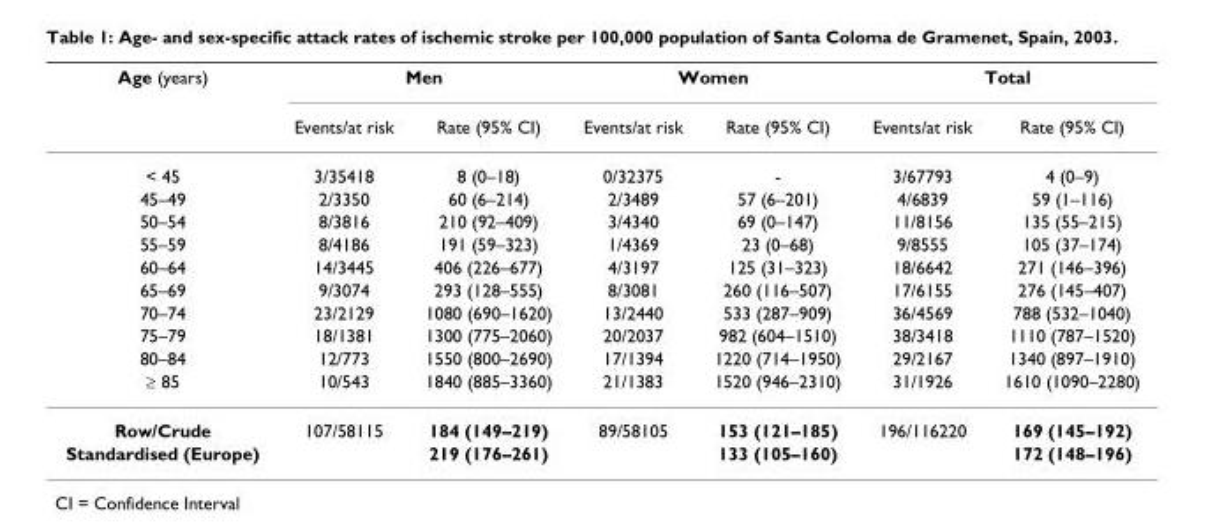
<table><thead><tr><td rowspan="2">Age (years)</td><td colspan="2">Men</td><td colspan="2">Women</td><td colspan="2">Total</td></tr><tr><td>Events/at risk</td><td>Rate (95% CI)</td><td>Events/at risk</td><td>Rate (95% CI)</td><td>Events/at risk</td><td>Rate (95% CI)</td></tr></thead><tbody><tr><td>&lt; 45</td><td>3/35418</td><td>8 (0–18)</td><td>0/32375</td><td>-</td><td>3/67793</td><td>4 (0–9)</td></tr><tr><td>45–49</td><td>2/3350</td><td>60 (6–214)</td><td>2/3489</td><td>57 (6–201)</td><td>4/6839</td><td>59 (1–116)</td></tr><tr><td>50–54</td><td>8/3816</td><td>210 (92–409)</td><td>3/4340</td><td>69 (0–147)</td><td>11/8156</td><td>135 (55–215)</td></tr><tr><td>55–59</td><td>8/4186</td><td>191 (59–323)</td><td>1/4369</td><td>23 (0–68)</td><td>9/8555</td><td>105 (37–174)</td></tr><tr><td>60–64</td><td>14/3445</td><td>406 (226–677)</td><td>4/3197</td><td>125 (31–323)</td><td>18/6642</td><td>271 (146–396)</td></tr><tr><td>65–69</td><td>9/3074</td><td>293 (128–555)</td><td>8/3081</td><td>260 (116–507)</td><td>17/6155</td><td>276 (145–407)</td></tr><tr><td>70–74</td><td>23/2129</td><td>1080 (690–1620)</td><td>13/2440</td><td>533 (287–909)</td><td>36/4569</td><td>788 (532–1040)</td></tr><tr><td>75–79</td><td>18/1381</td><td>1300 (775–2060)</td><td>20/2037</td><td>982 (604–1510)</td><td>38/3418</td><td>1110 (787–1520)</td></tr><tr><td>80–84</td><td>12/773</td><td>1550 (800–2690)</td><td>17/1394</td><td>1220 (714–1950)</td><td>29/2167</td><td>1340 (897–1910)</td></tr><tr><td>≥ 85</td><td>10/543</td><td>1840 (885–3360)</td><td>21/1383</td><td>1520 (946–2310)</td><td>31/1926</td><td>1610 (1090–2280)</td></tr><tr><td>Row/Crude</td><td>107/58115</td><td>184 (149–219)</td><td>89/58105</td><td>153 (121–185)</td><td>196/116220</td><td>169 (145–192)</td></tr><tr><td>Standardised (Europe)</td><td></td><td>219 (176–261)</td><td></td><td>133 (105–160)</td><td></td><td>172 (148–196)</td></tr></tbody></table>